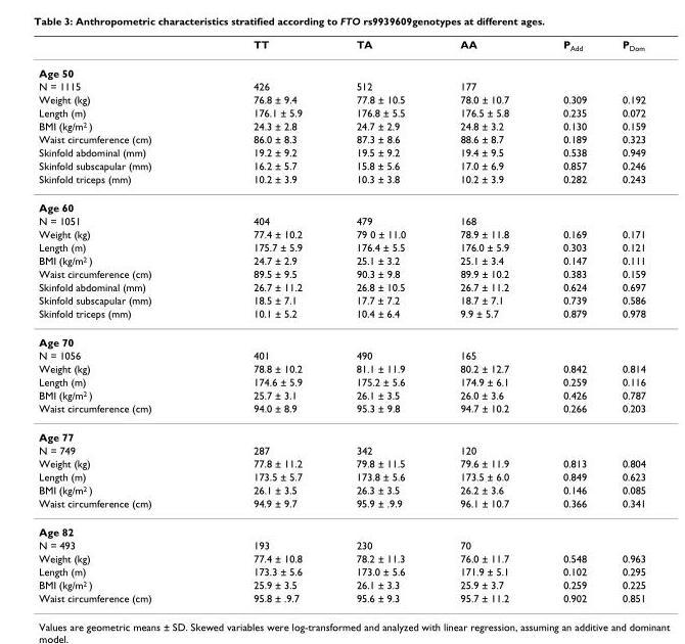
<table><thead><tr><td></td><td>TT</td><td>TA</td><td>AA</td><td>P<sub>Add</sub></td><td>P<sub>Dom</sub></td></tr></thead><tbody><tr><td colspan="6">Age 50</td></tr><tr><td>N = 1115</td><td>426</td><td>512</td><td>177</td><td></td><td></td></tr><tr><td>Weight (kg)</td><td>76.8 ± 9.4</td><td>77.8 ± 10.5</td><td>78.0 ± 10.7</td><td>0.309</td><td>0.192</td></tr><tr><td>Length (m)</td><td>176.1 ± 5.9</td><td>176.8 ± 5.5</td><td>176.5 ± 5.8</td><td>0.235</td><td>0.072</td></tr><tr><td>BMI (kg/m<sup>2</sup> )</td><td>24.3 ± 2.8</td><td>24.7 ± 2.9</td><td>24.8 ± 3.2</td><td>0.130</td><td>0.159</td></tr><tr><td>Waist circumference (cm)</td><td>86.0 ± 8.3</td><td>87.3 ± 8.6</td><td>88.6 ± 8.7</td><td>0.189</td><td>0.323</td></tr><tr><td>Skinfold abdominal (mm)</td><td>19.2 ± 9.2</td><td>19.5 ± 9.2</td><td>19.4 ± 9.5</td><td>0.538</td><td>0.949</td></tr><tr><td>Skinfold subscapular (mm)</td><td>16.2 ± 5.7</td><td>15.8 ± 5.6</td><td>17.0 ± 6.9</td><td>0.857</td><td>0.246</td></tr><tr><td>Skinfold triceps (mm)</td><td>10.2 ± 3.9</td><td>10.3 ± 3.8</td><td>10.2 ± 3.9</td><td>0.282</td><td>0.243</td></tr><tr><td colspan="6">Age 60</td></tr><tr><td>N = 1051</td><td>404</td><td>479</td><td>168</td><td></td><td></td></tr><tr><td>Weight (kg)</td><td>77.4 ± 10.2</td><td>79 0 ± 11.0</td><td>78.9 ± 11.8</td><td>0.169</td><td>0.171</td></tr><tr><td>Length (m)</td><td>175.7 ± 5.9</td><td>176.4 ± 5.5</td><td>176.0 ± 5.9</td><td>0.303</td><td>0.121</td></tr><tr><td>BMI (kg/m<sup>2</sup> )</td><td>24.7 ± 2.9</td><td>25.1 ± 3.2</td><td>25.1 ± 3.4</td><td>0.147</td><td>0.111</td></tr><tr><td>Waist circumference (cm)</td><td>89.5 ± 9.5</td><td>90.3 ± 9.8</td><td>89.9 ± 10.2</td><td>0.383</td><td>0.159</td></tr><tr><td>Skinfold abdominal (mm)</td><td>26.7 ± 11.2</td><td>26.8 ± 10.5</td><td>26.7 ± 11.2</td><td>0.624</td><td>0.697</td></tr><tr><td>Skinfold subscapular (mm)</td><td>18.5 ± 7.1</td><td>17.7 ± 7.2</td><td>18.7 ± 7.1</td><td>0.739</td><td>0.586</td></tr><tr><td>Skinfold triceps (mm)</td><td>10.1 ± 5.2</td><td>10.4 ± 6.4</td><td>9.9 ± 5.7</td><td>0.879</td><td>0.978</td></tr><tr><td colspan="6">Age 70</td></tr><tr><td>N = 1056</td><td>401</td><td>490</td><td>165</td><td></td><td></td></tr><tr><td>Weight (kg)</td><td>78.8 ± 10.2</td><td>81.1 ± 11.9</td><td>80.2 ± 12.7</td><td>0.842</td><td>0.814</td></tr><tr><td>Length (m)</td><td>174.6 ± 5.9</td><td>175.2 ± 5.6</td><td>174.9 ± 6.1</td><td>0.259</td><td>0.116</td></tr><tr><td>BMI (kg/m<sup>2</sup> )</td><td>25.7 ± 3.1</td><td>26.1 ± 3.5</td><td>26.0 ± 3.6</td><td>0.426</td><td>0.787</td></tr><tr><td>Waist circumference (cm)</td><td>94.0 ± 8.9</td><td>95.3 ± 9.8</td><td>94.7 ± 10.2</td><td>0.266</td><td>0.203</td></tr><tr><td colspan="6">Age 77</td></tr><tr><td>N = 749</td><td>287</td><td>342</td><td>120</td><td></td><td></td></tr><tr><td>Weight (kg)</td><td>77.8 ± 11.2</td><td>79.8 ± 11.5</td><td>79.6 ± 11.9</td><td>0.813</td><td>0.804</td></tr><tr><td>Length (m)</td><td>173.5 ± 5.7</td><td>173.8 ± 5.6</td><td>173.5 ± 6.0</td><td>0.849</td><td>0.623</td></tr><tr><td>BMI (kg/m<sup>2</sup> )</td><td>26.1 ± 3.5</td><td>26.3 ± 3.5</td><td>26.2 ± 3.6</td><td>0.146</td><td>0.085</td></tr><tr><td>Waist circumference (cm)</td><td>94.9 ± 9.7</td><td>95.9 ± .9.9</td><td>96.1 ± 10.7</td><td>0.366</td><td>0.341</td></tr><tr><td colspan="6">Age 82</td></tr><tr><td>N = 493</td><td>193</td><td>230</td><td>70</td><td></td><td></td></tr><tr><td>Weight (kg)</td><td>77.4 ± 10.8</td><td>78.2 ± 11.3</td><td>76.0 ± 11.7</td><td>0.548</td><td>0.963</td></tr><tr><td>Length (m)</td><td>173.3 ± 5.6</td><td>173.0 ± 5.6</td><td>171.9 ± 5.1</td><td>0.102</td><td>0.295</td></tr><tr><td>BMI (kg/m<sup>2</sup> )</td><td>25.9 ± 3.5</td><td>26.1 ± 3.3</td><td>25.9 ± 3.7</td><td>0.259</td><td>0.225</td></tr><tr><td>Waist circumference (cm)</td><td>95.8 ± .9.7</td><td>95.6 ± 9.3</td><td>95.7 ± 11.2</td><td>0.902</td><td>0.851</td></tr></tbody></table>